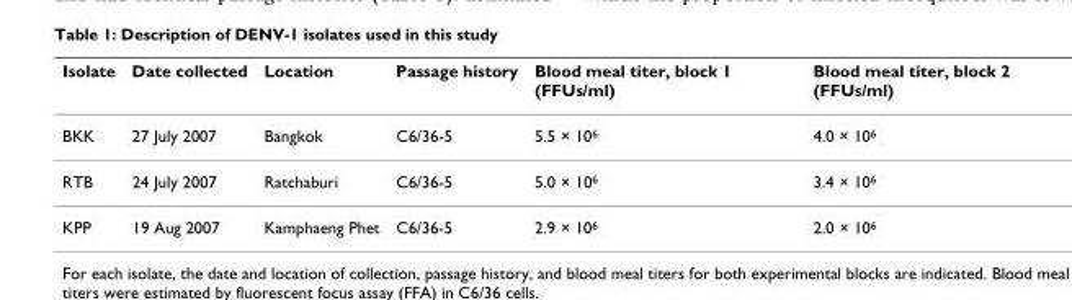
<table><thead><tr><td>Isolate</td><td>Date collected</td><td>Location</td><td>Passage history</td><td>Blood meal titer, block 1 (FFUs/ml)</td><td>Blood meal titer, block 2 (FFUs/ml)</td></tr></thead><tbody><tr><td>BKK</td><td>27 July 2007</td><td>Bangkok</td><td>C6/36-5</td><td>5.5 × 10<sup>6</sup></td><td>4.0 × 10<sup>6</sup></td></tr><tr><td>RTB</td><td>24 July 2007</td><td>Ratchaburi</td><td>C6/36-5</td><td>5.0 × 10<sup>6</sup></td><td>3.4 × 10<sup>6</sup></td></tr><tr><td>KPP</td><td>19 Aug 2007</td><td>Kamphaeng Phet</td><td>C6/36-5</td><td>2.9 × 10<sup>6</sup></td><td>2.0 × 10<sup>6</sup></td></tr></tbody></table>